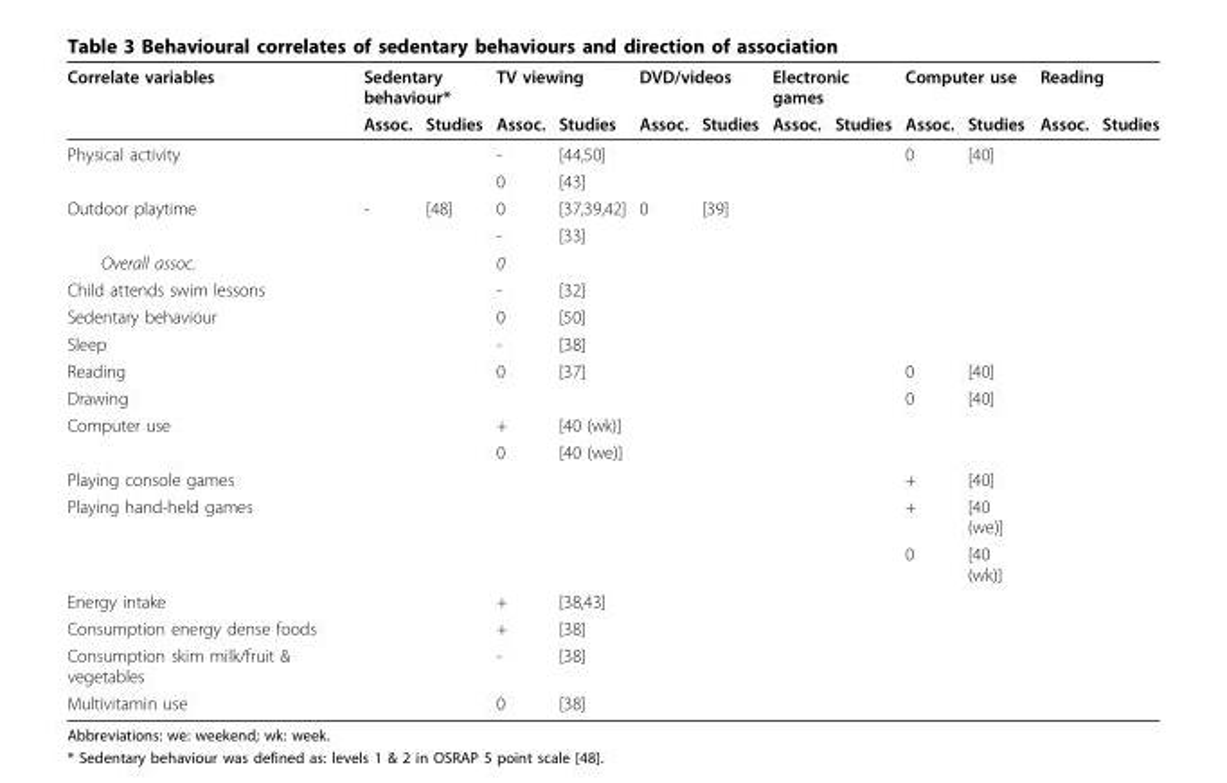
<table><thead><tr><td rowspan="2">Correlate variables</td><td colspan="2">Sedentary behaviour*</td><td colspan="2">TV viewing</td><td colspan="2">DVD/videos</td><td colspan="2">Electronic games</td><td colspan="2">Computer use</td><td colspan="2">Reading</td></tr><tr><td>Assoc.</td><td>Studies</td><td>Assoc.</td><td>Studies</td><td>Assoc.</td><td>Studies</td><td>Assoc.</td><td>Studies</td><td>Assoc.</td><td>Studies</td><td>Assoc.</td><td>Studies</td></tr></thead><tbody><tr><td rowspan="2">Physical activity</td><td></td><td></td><td>-</td><td>[44,50]</td><td></td><td></td><td></td><td></td><td>0</td><td>[40]</td><td></td><td></td></tr><tr><td></td><td></td><td>0</td><td>[43]</td><td></td><td></td><td></td><td></td><td></td><td></td><td></td><td></td></tr><tr><td rowspan="2">Outdoor playtime</td><td>-</td><td>[48]</td><td>0</td><td>[37,39,42]</td><td>0</td><td>[39]</td><td></td><td></td><td></td><td></td><td></td><td></td></tr><tr><td></td><td></td><td>-</td><td>[33]</td><td></td><td></td><td></td><td></td><td></td><td></td><td></td><td></td></tr><tr><td>Overall assoc.</td><td></td><td></td><td>0</td><td></td><td></td><td></td><td></td><td></td><td></td><td></td><td></td><td></td></tr><tr><td>Child attends swim lessons</td><td></td><td></td><td>-</td><td>[32]</td><td></td><td></td><td></td><td></td><td></td><td></td><td></td><td></td></tr><tr><td>Sedentary behaviour</td><td></td><td></td><td>0</td><td>[50]</td><td></td><td></td><td></td><td></td><td></td><td></td><td></td><td></td></tr><tr><td>Sleep</td><td></td><td></td><td>-</td><td>[38]</td><td></td><td></td><td></td><td></td><td></td><td></td><td></td><td></td></tr><tr><td>Reading</td><td></td><td></td><td>0</td><td>[37]</td><td></td><td></td><td></td><td></td><td>0</td><td>[40]</td><td></td><td></td></tr><tr><td>Drawing</td><td></td><td></td><td></td><td></td><td></td><td></td><td></td><td></td><td>0</td><td>[40]</td><td></td><td></td></tr><tr><td rowspan="2">Computer use</td><td></td><td></td><td>+</td><td>[40 (wk)]</td><td></td><td></td><td></td><td></td><td></td><td></td><td></td><td></td></tr><tr><td></td><td></td><td>0</td><td>[40 (we)]</td><td></td><td></td><td></td><td></td><td></td><td></td><td></td><td></td></tr><tr><td>Playing console games</td><td></td><td></td><td></td><td></td><td></td><td></td><td></td><td></td><td>+</td><td>[40]</td><td></td><td></td></tr><tr><td rowspan="2">Playing hand-held games</td><td></td><td></td><td></td><td></td><td></td><td></td><td></td><td></td><td>+</td><td>[40 (we)]</td><td></td><td></td></tr><tr><td></td><td></td><td></td><td></td><td></td><td></td><td></td><td></td><td>0</td><td>[40 (wk)]</td><td></td><td></td></tr><tr><td>Energy intake</td><td></td><td></td><td>+</td><td>[38,43]</td><td></td><td></td><td></td><td></td><td></td><td></td><td></td><td></td></tr><tr><td>Consumption energy dense foods</td><td></td><td></td><td>+</td><td>[38]</td><td></td><td></td><td></td><td></td><td></td><td></td><td></td><td></td></tr><tr><td>Consumption skim milk/fruit &amp; vegetables</td><td></td><td></td><td>-</td><td>[38]</td><td></td><td></td><td></td><td></td><td></td><td></td><td></td><td></td></tr><tr><td>Multivitamin use</td><td></td><td></td><td>0</td><td>[38]</td><td></td><td></td><td></td><td></td><td></td><td></td><td></td><td></td></tr></tbody></table>